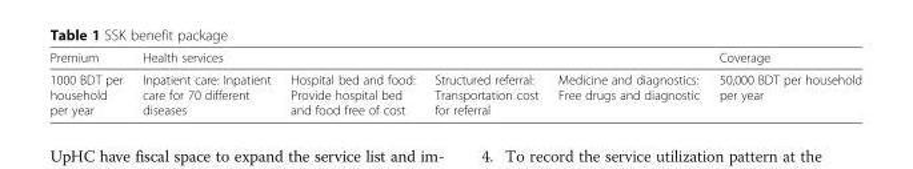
<table><thead><tr><td rowspan="2">Premium 1000 BDT per household per year</td><td colspan="4">Health services</td><td rowspan="2">Coverage 50,000 BDT per household per year</td></tr><tr><td>Inpatient care: Inpatient care for 70 different diseases</td><td>Hospital bed and food: Provide hospital bed and food free of cost</td><td>Structured referral: Transportation cost for referral</td><td>Medicine and diagnostics: Free drugs and diagnostic</td></tr></thead><tbody></tbody></table>